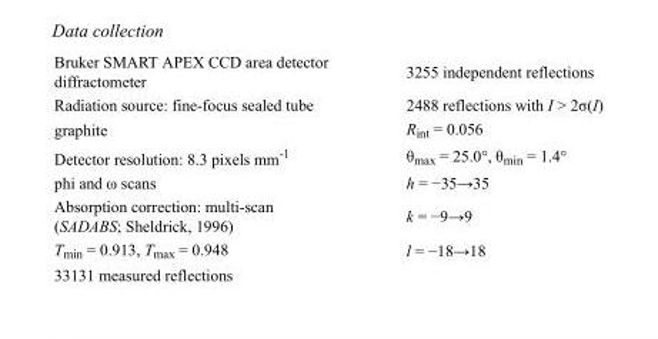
<table><tbody><tr><td>Bruker SMART APEX CCD area detector diffractometer</td><td>3255 independent reflections</td></tr><tr><td>Radiation source: fine-focus sealed tube</td><td>2488 reflections with I &gt; 2σ(I)</td></tr><tr><td>graphite</td><td>R<sub>int</sub> = 0.056</td></tr><tr><td>Detector resolution: 8.3 pixels mm<sup>-1</sup></td><td>θ<sub>max</sub> = 25.0°, θ<sub>min</sub> = 1.4°</td></tr><tr><td>phi and ω scans</td><td>h = −35→35</td></tr><tr><td>Absorption correction: multi-scan (SADABS; Sheldrick, 1996)</td><td>k = −9→9</td></tr><tr><td>T<sub>min</sub> = 0.913, T<sub>max</sub> = 0.948</td><td>l = −18→18</td></tr><tr><td>33131 measured reflections</td><td></td></tr></tbody></table>